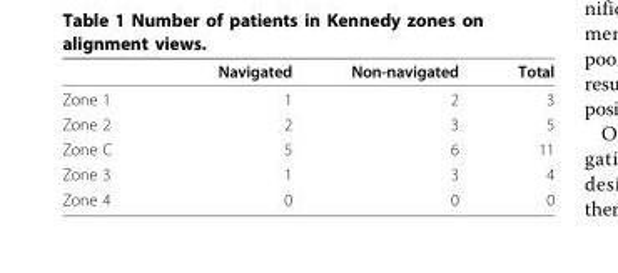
<table><thead><tr><td></td><td>Navigated</td><td>Non-navigated</td><td>Total</td></tr></thead><tbody><tr><td>Zone 1</td><td>1</td><td>2</td><td>3</td></tr><tr><td>Zone 2</td><td>2</td><td>3</td><td>5</td></tr><tr><td>Zone C</td><td>5</td><td>6</td><td>11</td></tr><tr><td>Zone 3</td><td>1</td><td>3</td><td>4</td></tr><tr><td>Zone 4</td><td>0</td><td>0</td><td>0</td></tr></tbody></table>